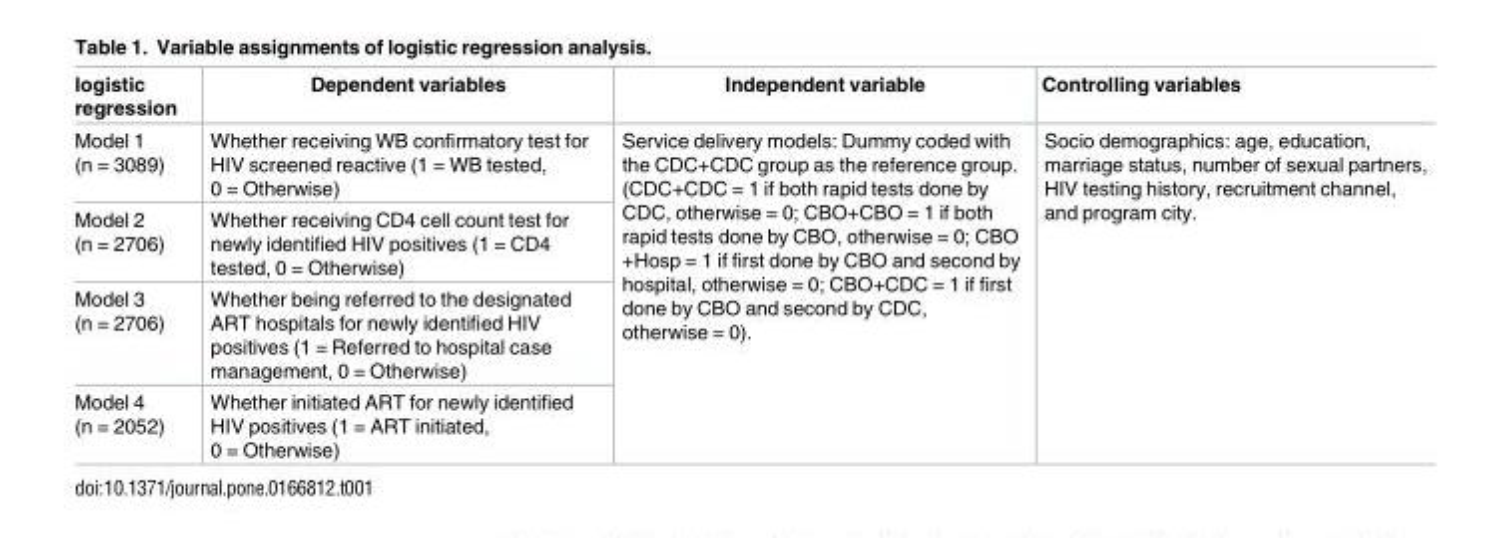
<table><thead><tr><td>logistic regression</td><td>Dependent variables</td><td>Independent variable</td><td>Controlling variables</td></tr></thead><tbody><tr><td>Model 1 (n = 3089)</td><td>Whether receiving WB confirmatory test for HIV screened reactive (1 = WB tested, 0 = Otherwise)</td><td rowspan="4">Service delivery models: Dummy coded with the CDC+CDC group as the reference group. (CDC+CDC = 1 if both rapid tests done by CDC, otherwise = 0; CBO+CBO = 1 if both rapid tests done by CBO, otherwise = 0; CBO +Hosp = 1 if first done by CBO and second by hospital, otherwise = 0; CBO+CDC = 1 if first done by CBO and second by CDC, otherwise = 0).</td><td rowspan="4">Socio demographics: age, education, marriage status, number of sexual partners, HIV testing history, recruitment channel, and program city.</td></tr><tr><td>Model 2 (n = 2706)</td><td>Whether receiving CD4 cell count test for newly identified HIV positives (1 = CD4 tested, 0 = Otherwise)</td></tr><tr><td>Model 3 (n = 2706)</td><td>Whether being referred to the designated ART hospitals for newly identified HIV positives (1 = Referred to hospital case management, 0 = Otherwise)</td></tr><tr><td>Model 4 (n = 2052)</td><td>Whether initiated ART for newly identified HIV positives (1 = ART initiated, 0 = Otherwise)</td></tr></tbody></table>